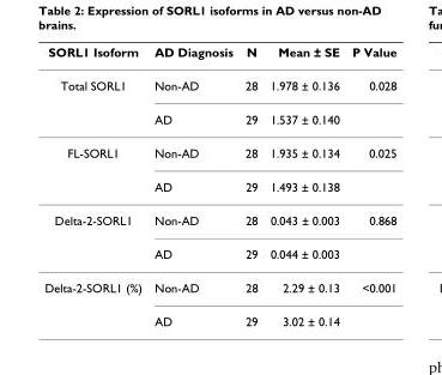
<table><thead><tr><td>SORL1 Isoform</td><td>AD Diagnosis</td><td>N</td><td>Mean ± SE</td><td>P Value</td></tr></thead><tbody><tr><td rowspan="2">Total SORL1</td><td>Non-AD</td><td>28</td><td>1.978 ± 0.136</td><td>0.028</td></tr><tr><td>AD</td><td>29</td><td>1.537 ± 0.140</td><td></td></tr><tr><td rowspan="2">FL-SORL1</td><td>Non-AD</td><td>28</td><td>1.935 ± 0.134</td><td>0.025</td></tr><tr><td>AD</td><td>29</td><td>1.493 ± 0.138</td><td></td></tr><tr><td rowspan="2">Delta-2-SORL1</td><td>Non-AD</td><td>28</td><td>0.043 ± 0.003</td><td>0.868</td></tr><tr><td>AD</td><td>29</td><td>0.044 ± 0.003</td><td></td></tr><tr><td rowspan="2">Delta-2-SORL1 (%)</td><td>Non-AD</td><td>28</td><td>2.29 ± 0.13</td><td>&lt;0.001</td></tr><tr><td>AD</td><td>29</td><td>3.02 ± 0.14</td><td></td></tr></tbody></table>